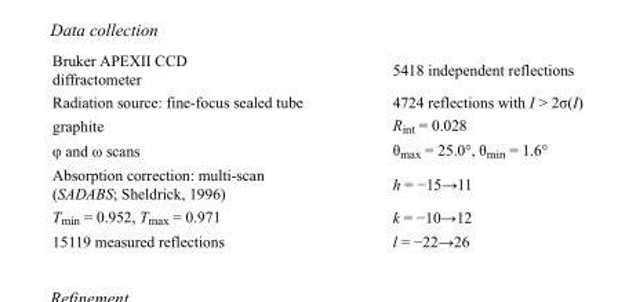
<table><tbody><tr><td>Bruker APEXII CCD diffractometer</td><td>5418 independent reflections</td></tr><tr><td>Radiation source: fine-focus sealed tube</td><td>4724 reflections with I &gt; 2σ(I)</td></tr><tr><td>graphite</td><td>R<sub>int</sub> = 0.028</td></tr><tr><td>φ and ω scans</td><td>θ<sub>max</sub> = 25.0°, θ<sub>min</sub> = 1.6°</td></tr><tr><td>Absorption correction: multi-scan (SADABS; Sheldrick, 1996)</td><td>h = −15→11</td></tr><tr><td>T<sub>min</sub> = 0.952, T<sub>max</sub> = 0.971</td><td>k = −10→12</td></tr><tr><td>15119 measured reflections</td><td>l = −22→26</td></tr></tbody></table>